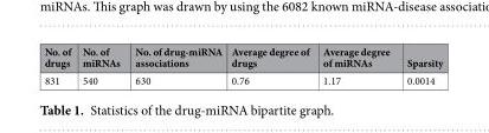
<table><thead><tr><td>No. of drugs</td><td>No. of miRNAs</td><td>No. of drug-miRNA associations</td><td>Average degree of drugs</td><td>Average degree of miRNAs</td><td>Sparsity</td></tr></thead><tbody><tr><td>831</td><td>540</td><td>630</td><td>0.76</td><td>1.17</td><td>0.0014</td></tr></tbody></table>